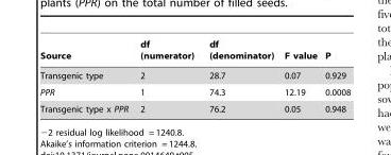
<table><thead><tr><td>Source</td><td>df (numerator)</td><td>df (denominator)</td><td>F value</td><td>P</td></tr></thead><tbody><tr><td>Transgenic type</td><td>2</td><td>28.7</td><td>0.07</td><td>0.929</td></tr><tr><td>PPR</td><td>1</td><td>74.3</td><td>12.19</td><td>0.0008</td></tr><tr><td>Transgenic type x PPR</td><td>2</td><td>76.2</td><td>0.05</td><td>0.948</td></tr></tbody></table>